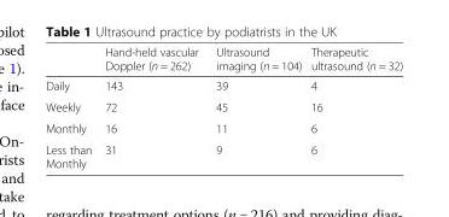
<table><thead><tr><td></td><td>Hand-held vascular Doppler (n = 262)</td><td>Ultrasound imaging (n = 104)</td><td>Therapeutic ultrasound (n = 32)</td></tr></thead><tbody><tr><td>Daily</td><td>143</td><td>39</td><td>4</td></tr><tr><td>Weekly</td><td>72</td><td>45</td><td>16</td></tr><tr><td>Monthly</td><td>16</td><td>11</td><td>6</td></tr><tr><td>Less than Monthly</td><td>31</td><td>9</td><td>6</td></tr></tbody></table>